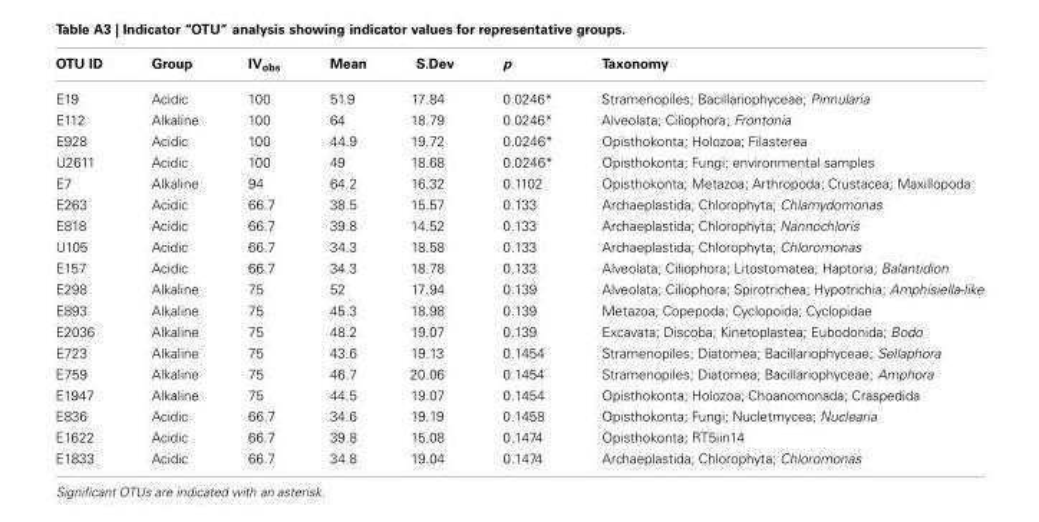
<table><thead><tr><td>OTU ID</td><td>Group</td><td>IV<sub>obs</sub></td><td>Mean</td><td>S.Dev</td><td>p</td><td>Taxonomy</td></tr></thead><tbody><tr><td>E19</td><td>Acidic</td><td>100</td><td>51.9</td><td>17.84</td><td>0.0246*</td><td>Stramenopiles; Bacillariophyceae; Pinnularia</td></tr><tr><td>E112</td><td>Alkaline</td><td>100</td><td>64</td><td>18.79</td><td>0.0246*</td><td>Alveolata; Ciliophora; Frontonia</td></tr><tr><td>E928</td><td>Acidic</td><td>100</td><td>44.9</td><td>19.72</td><td>0.0246*</td><td>Opisthokonta; Holozoa; Filasterea</td></tr><tr><td>U2611</td><td>Acidic</td><td>100</td><td>49</td><td>18.68</td><td>0.0246*</td><td>Opisthokonta; Fungi; environmental samples</td></tr><tr><td>E7</td><td>Alkaline</td><td>94</td><td>64.2</td><td>16.32</td><td>0.1102</td><td>Opisthokonta; Metazoa; Arthropoda; Crustacea; Maxillopoda</td></tr><tr><td>E263</td><td>Acidic</td><td>66.7</td><td>38.5</td><td>15.57</td><td>0.133</td><td>Archaeplastida; Chlorophyta; Chlamydomonas</td></tr><tr><td>E818</td><td>Acidic</td><td>66.7</td><td>39.8</td><td>14.52</td><td>0.133</td><td>Archaeplastida; Chlorophyta; Nannochloris</td></tr><tr><td>U105</td><td>Acidic</td><td>66.7</td><td>34.3</td><td>18.58</td><td>0.133</td><td>Archaeplastida; Chlorophyta; Chloromonas</td></tr><tr><td>E157</td><td>Acidic</td><td>66.7</td><td>34.3</td><td>18.78</td><td>0.133</td><td>Alveolata; Ciliophora; Litostomatea; Haptoria; Balantidion</td></tr><tr><td>E298</td><td>Alkaline</td><td>75</td><td>52</td><td>17.94</td><td>0.139</td><td>Alveolata; Ciliophora; Spirotrichea; Hypotrichia; Amphisiella-like</td></tr><tr><td>E893</td><td>Alkaline</td><td>75</td><td>45.3</td><td>18.98</td><td>0.139</td><td>Metazoa; Copepoda; Cyclopoida; Cyclopidae</td></tr><tr><td>E2036</td><td>Alkaline</td><td>75</td><td>48.2</td><td>19.07</td><td>0.139</td><td>Excavata; Discoba; Kinetoplastea; Eubodonida; Bodo</td></tr><tr><td>E723</td><td>Alkaline</td><td>75</td><td>43.6</td><td>19.13</td><td>0.1454</td><td>Stramenopiles; Diatomea; Bacillariophyceae; Sellaphora</td></tr><tr><td>E759</td><td>Alkaline</td><td>75</td><td>46.7</td><td>20.06</td><td>0.1454</td><td>Stramenopiles; Diatomea; Bacillariophyceae; Amphora</td></tr><tr><td>E1947</td><td>Alkaline</td><td>75</td><td>44.5</td><td>19.07</td><td>0.1454</td><td>Opisthokonta; Holozoa; Choanomonada; Craspedida</td></tr><tr><td>E836</td><td>Acidic</td><td>66.7</td><td>34.6</td><td>19.19</td><td>0.1458</td><td>Opisthokonta; Fungi; Nucletmycea; Nuclearia</td></tr><tr><td>E1622</td><td>Acidic</td><td>66.7</td><td>39.8</td><td>15.08</td><td>0.1474</td><td>Opisthokonta; RT5iin14</td></tr><tr><td>E1833</td><td>Acidic</td><td>66.7</td><td>34.8</td><td>19.04</td><td>0.1474</td><td>Archaeplastida; Chlorophyta; Chloromonas</td></tr></tbody></table>